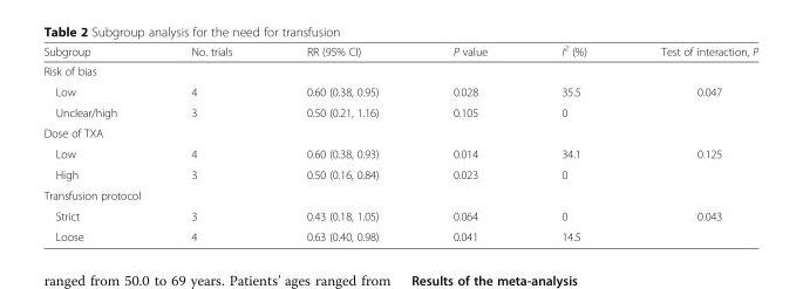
<table><thead><tr><td>Subgroup</td><td>No. trials</td><td>RR (95% CI)</td><td>P value</td><td>I<sup>2</sup> (%)</td><td>Test of interaction, P</td></tr></thead><tbody><tr><td colspan="6">Risk of bias</td></tr><tr><td>Low</td><td>4</td><td>0.60 (0.38, 0.95)</td><td>0.028</td><td>35.5</td><td rowspan="2">0.047</td></tr><tr><td>Unclear/high</td><td>3</td><td>0.50 (0.21, 1.16)</td><td>0.105</td><td>0</td></tr><tr><td colspan="6">Dose of TXA</td></tr><tr><td>Low</td><td>4</td><td>0.60 (0.38, 0.93)</td><td>0.014</td><td>34.1</td><td rowspan="2">0.125</td></tr><tr><td>High</td><td>3</td><td>0.50 (0.16, 0.84)</td><td>0.023</td><td>0</td></tr><tr><td colspan="6">Transfusion protocol</td></tr><tr><td>Strict</td><td>3</td><td>0.43 (0.18, 1.05)</td><td>0.064</td><td>0</td><td rowspan="2">0.043</td></tr><tr><td>Loose</td><td>4</td><td>0.63 (0.40, 0.98)</td><td>0.041</td><td>14.5</td></tr></tbody></table>